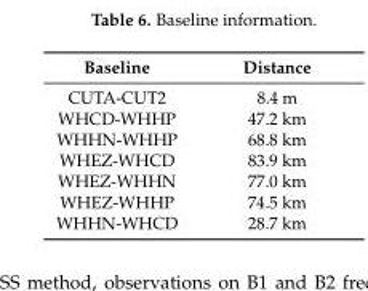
<table><thead><tr><td>Baseline</td><td>Distance</td></tr></thead><tbody><tr><td>CUTA-CUT2</td><td>8.4 m</td></tr><tr><td>WHCD-WHHP</td><td>47.2 km</td></tr><tr><td>WHHN-WHHP</td><td>68.8 km</td></tr><tr><td>WHEZ-WHCD</td><td>83.9 km</td></tr><tr><td>WHEZ-WHHN</td><td>77.0 km</td></tr><tr><td>WHEZ-WHHP</td><td>74.5 km</td></tr><tr><td>WHHN-WHCD</td><td>28.7 km</td></tr></tbody></table>